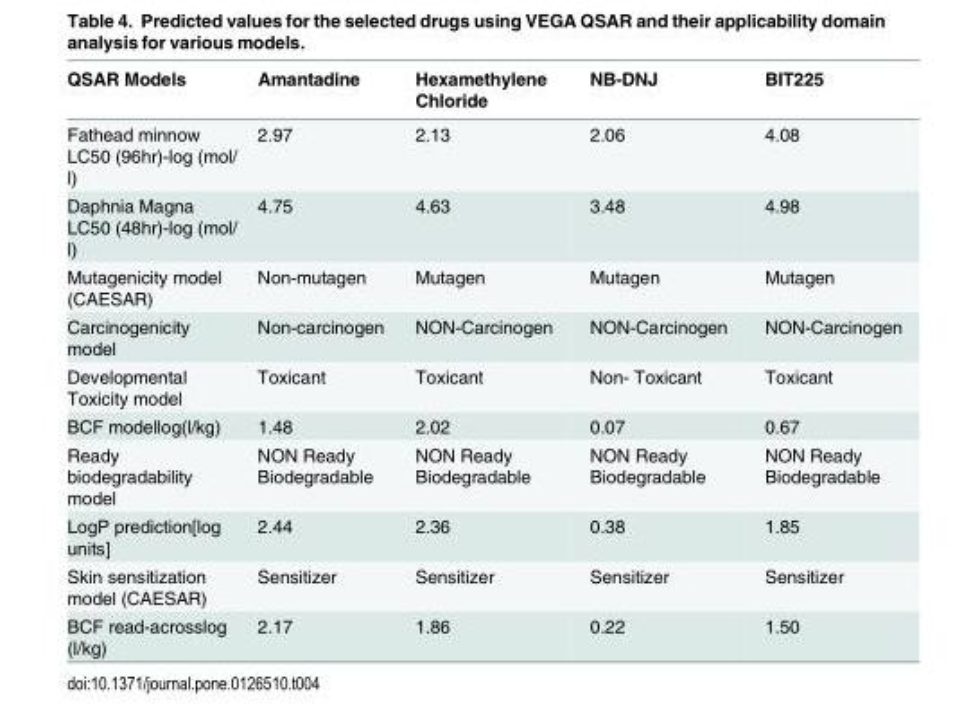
<table><thead><tr><td>QSAR Models</td><td>Amantadine</td><td>Hexamethylene Chloride</td><td>NB-DNJ</td><td>BIT225</td></tr></thead><tbody><tr><td>Fathead minnow LC50 (96hr)-log (mol/ l)</td><td>2.97</td><td>2.13</td><td>2.06</td><td>4.08</td></tr><tr><td>Daphnia Magna LC50 (48hr)-log (mol/ l)</td><td>4.75</td><td>4.63</td><td>3.48</td><td>4.98</td></tr><tr><td>Mutagenicity model (CAESAR)</td><td>Non-mutagen</td><td>Mutagen</td><td>Mutagen</td><td>Mutagen</td></tr><tr><td>Carcinogenicity model</td><td>Non-carcinogen</td><td>NON-Carcinogen</td><td>NON-Carcinogen</td><td>NON-Carcinogen</td></tr><tr><td>Developmental Toxicity model</td><td>Toxicant</td><td>Toxicant</td><td>Non- Toxicant</td><td>Toxicant</td></tr><tr><td>BCF modellog(l/kg)</td><td>1.48</td><td>2.02</td><td>0.07</td><td>0.67</td></tr><tr><td>Ready biodegradability model</td><td>NON Ready Biodegradable</td><td>NON Ready Biodegradable</td><td>NON Ready Biodegradable</td><td>NON Ready Biodegradable</td></tr><tr><td>LogP prediction[log units]</td><td>2.44</td><td>2.36</td><td>0.38</td><td>1.85</td></tr><tr><td>Skin sensitization model (CAESAR)</td><td>Sensitizer</td><td>Sensitizer</td><td>Sensitizer</td><td>Sensitizer</td></tr><tr><td>BCF read-acrosslog (l/kg)</td><td>2.17</td><td>1.86</td><td>0.22</td><td>1.50</td></tr></tbody></table>